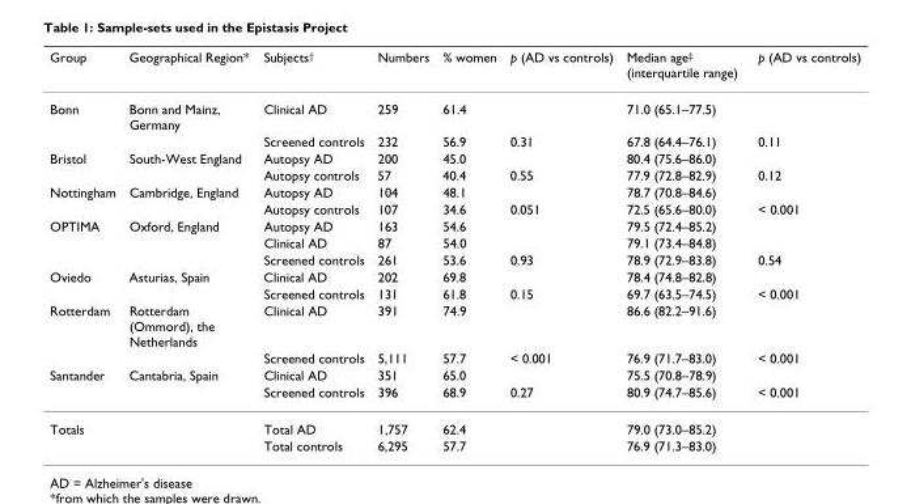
<table><thead><tr><td>Group</td><td>Geographical Region*</td><td>Subjects<sup>†</sup></td><td>Numbers</td><td>% women</td><td>p (AD vs controls)</td><td>Median age<sup>‡</sup> (interquartile range)</td><td>p (AD vs controls)</td></tr></thead><tbody><tr><td rowspan="2">Bonn</td><td>Bonn and Mainz, Germany</td><td>Clinical AD</td><td>259</td><td>61.4</td><td></td><td>71.0 (65.1–77.5)</td><td></td></tr><tr><td></td><td>Screened controls</td><td>232</td><td>56.9</td><td>0.31</td><td>67.8 (64.4–76.1)</td><td>0.11</td></tr><tr><td rowspan="2">Bristol</td><td>South-West England</td><td>Autopsy AD</td><td>200</td><td>45.0</td><td></td><td>80.4 (75.6–86.0)</td><td></td></tr><tr><td></td><td>Autopsy controls</td><td>57</td><td>40.4</td><td>0.55</td><td>77.9 (72.8–82.9)</td><td>0.12</td></tr><tr><td rowspan="2">Nottingham</td><td>Cambridge, England</td><td>Autopsy AD</td><td>104</td><td>48.1</td><td></td><td>78.7 (70.8–84.6)</td><td></td></tr><tr><td></td><td>Autopsy controls</td><td>107</td><td>34.6</td><td>0.051</td><td>72.5 (65.6–80.0)</td><td>&lt; 0.001</td></tr><tr><td rowspan="3">OPTIMA</td><td>Oxford, England</td><td>Autopsy AD</td><td>163</td><td>54.6</td><td></td><td>79.5 (72.4–85.2)</td><td></td></tr><tr><td></td><td>Clinical AD</td><td>87</td><td>54.0</td><td></td><td>79.1 (73.4–84.8)</td><td></td></tr><tr><td></td><td>Screened controls</td><td>261</td><td>53.6</td><td>0.93</td><td>78.9 (72.9–83.8)</td><td>0.54</td></tr><tr><td rowspan="2">Oviedo</td><td>Asturias, Spain</td><td>Clinical AD</td><td>202</td><td>69.8</td><td></td><td>78.4 (74.8–82.8)</td><td></td></tr><tr><td></td><td>Screened controls</td><td>131</td><td>61.8</td><td>0.15</td><td>69.7 (63.5–74.5)</td><td>&lt; 0.001</td></tr><tr><td rowspan="2">Rotterdam</td><td>Rotterdam (Ommord), the Netherlands</td><td>Clinical AD</td><td>391</td><td>74.9</td><td></td><td>86.6 (82.2–91.6)</td><td></td></tr><tr><td></td><td>Screened controls</td><td>5,111</td><td>57.7</td><td>&lt; 0.001</td><td>76.9 (71.7–83.0)</td><td>&lt; 0.001</td></tr><tr><td rowspan="2">Santander</td><td>Cantabria, Spain</td><td>Clinical AD</td><td>351</td><td>65.0</td><td></td><td>75.5 (70.8–78.9)</td><td></td></tr><tr><td></td><td>Screened controls</td><td>396</td><td>68.9</td><td>0.27</td><td>80.9 (74.7–85.6)</td><td>&lt; 0.001</td></tr><tr><td rowspan="2">Totals</td><td></td><td>Total AD</td><td>1,757</td><td>62.4</td><td></td><td>79.0 (73.0–85.2)</td><td></td></tr><tr><td></td><td>Total controls</td><td>6,295</td><td>57.7</td><td></td><td>76.9 (71.3–83.0)</td><td></td></tr></tbody></table>